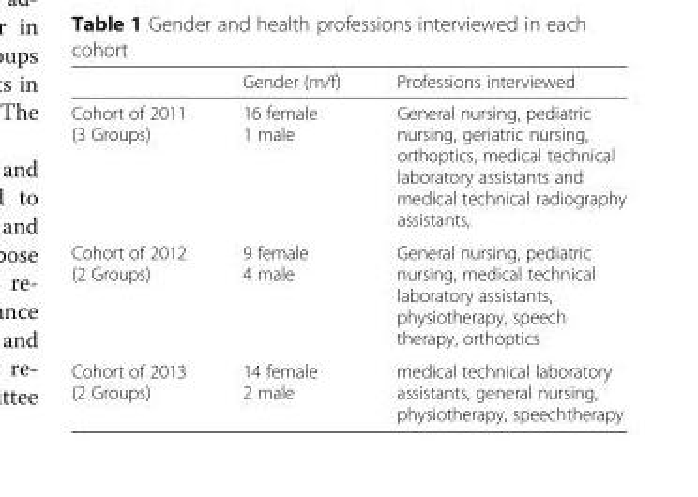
<table><thead><tr><td></td><td>Gender (m/f)</td><td>Professions interviewed</td></tr></thead><tbody><tr><td>Cohort of 2011 (3 Groups)</td><td>16 female 1 male</td><td>General nursing, pediatric nursing, geriatric nursing, orthoptics, medical technical laboratory assistants and medical technical radiography assistants,</td></tr><tr><td>Cohort of 2012 (2 Groups)</td><td>9 female 4 male</td><td>General nursing, pediatric nursing, medical technical laboratory assistants, physiotherapy, speech therapy, orthoptics</td></tr><tr><td>Cohort of 2013 (2 Groups)</td><td>14 female 2 male</td><td>medical technical laboratory assistants, general nursing, physiotherapy, speechtherapy</td></tr></tbody></table>